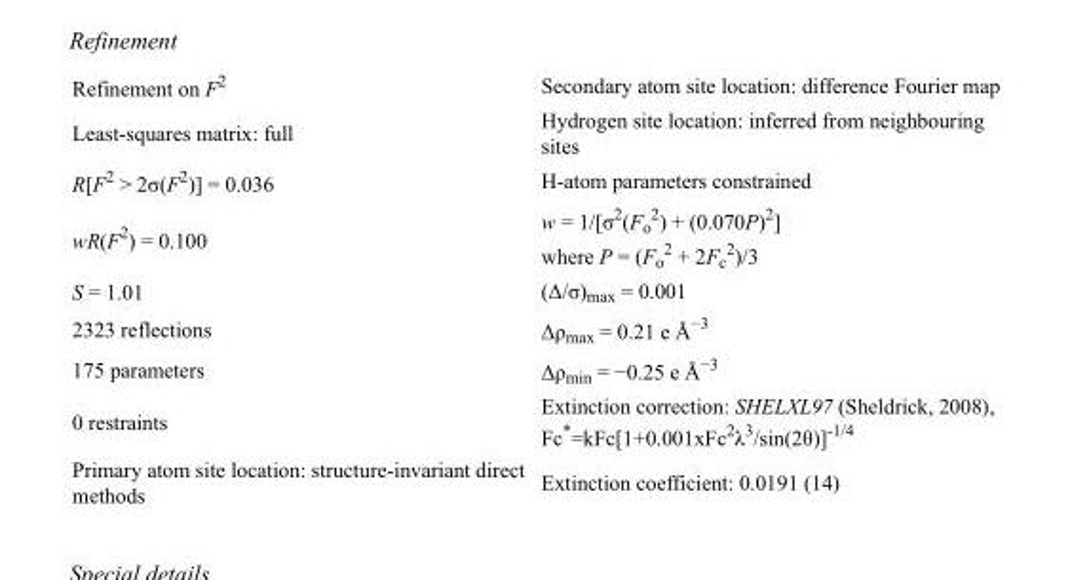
<table><tbody><tr><td>Refinement on F<sup>2</sup></td><td>Secondary atom site location: difference Fourier map</td></tr><tr><td>Least-squares matrix: full</td><td>Hydrogen site location: inferred from neighbouring sites</td></tr><tr><td>R[F<sup>2</sup> &gt; 2σ(F<sup>2</sup>)] = 0.036</td><td>H-atom parameters constrained</td></tr><tr><td>wR(F<sup>2</sup>) = 0.100</td><td>w = 1/[σ<sup>2</sup>(F<sub>o</sub> <sup>2</sup>) + (0.070P)<sup>2</sup>] where P = (F<sub>o</sub> <sup>2</sup> + 2F<sub>c</sub> <sup>2</sup>)/3</td></tr><tr><td>S = 1.01</td><td>(Δ/σ)<sub>max</sub> = 0.001</td></tr><tr><td>2323 reflections</td><td>Δρ<sub>max</sub> = 0.21 e Å<sup>−3</sup></td></tr><tr><td>175 parameters</td><td>Δρ<sub>min</sub> = −0.25 e Å<sup>−3</sup></td></tr><tr><td>0 restraints</td><td>Extinction correction: SHELXL97 (Sheldrick, 2008), Fc*=kFc[1+0.001xFc<sup>2</sup>λ<sup>3</sup>/sin(2θ)]<sup>-1/4</sup></td></tr><tr><td>Primary atom site location: structure-invariant direct methods</td><td>Extinction coefficient: 0.0191 (14)</td></tr></tbody></table>